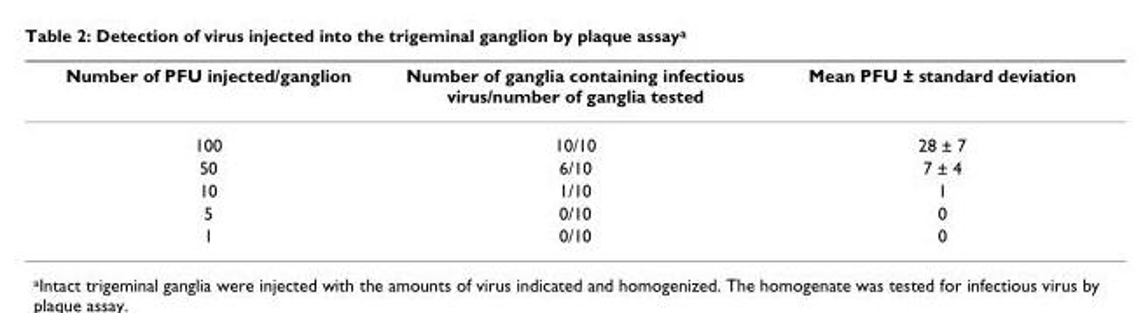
<table><thead><tr><td>Number of PFU injected/ganglion</td><td>Number of ganglia containing infectious virus/number of ganglia tested</td><td>Mean PFU ± standard deviation</td></tr></thead><tbody><tr><td>100</td><td>10/10</td><td>28 ± 7</td></tr><tr><td>50</td><td>6/10</td><td>7 ± 4</td></tr><tr><td>10</td><td>1/10</td><td>1</td></tr><tr><td>5</td><td>0/10</td><td>0</td></tr><tr><td>1</td><td>0/10</td><td>0</td></tr></tbody></table>